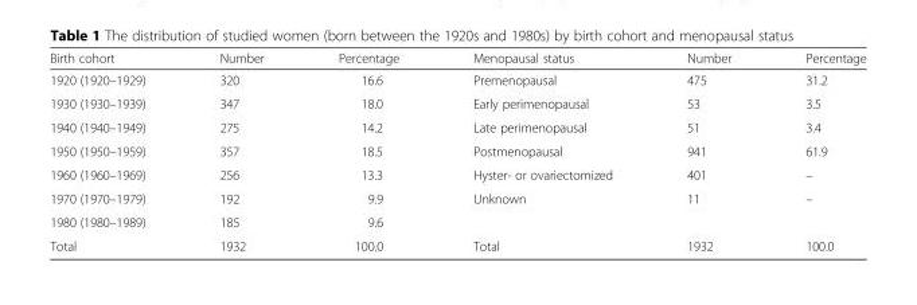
<table><thead><tr><td>Birth cohort</td><td>Number</td><td>Percentage</td><td>Menopausal status</td><td>Number</td><td>Percentage</td></tr></thead><tbody><tr><td>1920 (1920–1929)</td><td>320</td><td>16.6</td><td>Premenopausal</td><td>475</td><td>31.2</td></tr><tr><td>1930 (1930–1939)</td><td>347</td><td>18.0</td><td>Early perimenopausal</td><td>53</td><td>3.5</td></tr><tr><td>1940 (1940–1949)</td><td>275</td><td>14.2</td><td>Late perimenopausal</td><td>51</td><td>3.4</td></tr><tr><td>1950 (1950–1959)</td><td>357</td><td>18.5</td><td>Postmenopausal</td><td>941</td><td>61.9</td></tr><tr><td>1960 (1960–1969)</td><td>256</td><td>13.3</td><td>Hyster- or ovariectomized</td><td>401</td><td>–</td></tr><tr><td>1970 (1970–1979)</td><td>192</td><td>9.9</td><td>Unknown</td><td>11</td><td>–</td></tr><tr><td>1980 (1980–1989)</td><td>185</td><td>9.6</td><td></td><td></td><td></td></tr><tr><td>Total</td><td>1932</td><td>100.0</td><td>Total</td><td>1932</td><td>100.0</td></tr></tbody></table>